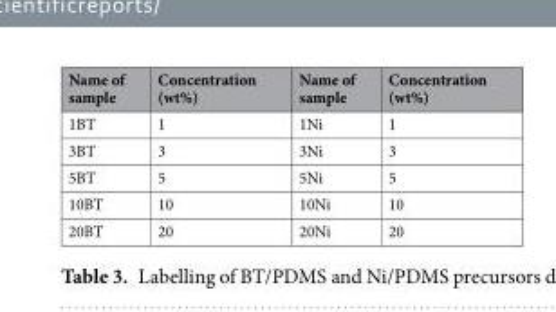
<table><thead><tr><td>Name of sample</td><td>Concentration (wt%)</td><td>Name of sample</td><td>Concentration (wt%)</td></tr></thead><tbody><tr><td>1BT</td><td>1</td><td>1Ni</td><td>1</td></tr><tr><td>3BT</td><td>3</td><td>3Ni</td><td>3</td></tr><tr><td>5BT</td><td>5</td><td>5Ni</td><td>5</td></tr><tr><td>10BT</td><td>10</td><td>10Ni</td><td>10</td></tr><tr><td>20BT</td><td>20</td><td>20Ni</td><td>20</td></tr></tbody></table>